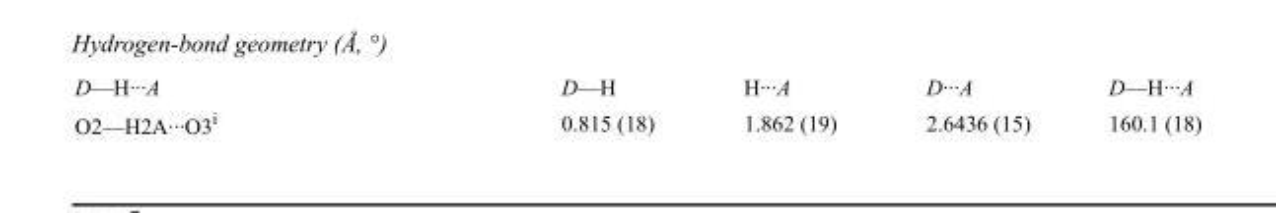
<table><tbody><tr><td>D—H···A</td><td>D—H</td><td>H···A</td><td>D···A</td><td>D—H···A</td></tr><tr><td>O2—H2A···O3<sup>i</sup></td><td>0.815 (18)</td><td>1.862 (19)</td><td>2.6436 (15)</td><td>160.1 (18)</td></tr></tbody></table>